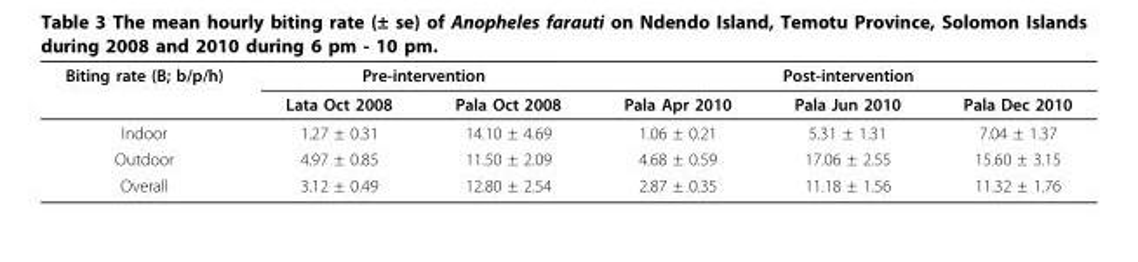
<table><thead><tr><td rowspan="2">Biting rate (B; b/p/h)</td><td colspan="2">Pre-intervention</td><td colspan="3">Post-intervention</td></tr><tr><td>Lata Oct 2008</td><td>Pala Oct 2008</td><td>Pala Apr 2010</td><td>Pala Jun 2010</td><td>Pala Dec 2010</td></tr></thead><tbody><tr><td>Indoor</td><td>1.27 ± 0.31</td><td>14.10 ± 4.69</td><td>1.06 ± 0.21</td><td>5.31 ± 1.31</td><td>7.04 ± 1.37</td></tr><tr><td>Outdoor</td><td>4.97 ± 0.85</td><td>11.50 ± 2.09</td><td>4.68 ± 0.59</td><td>17.06 ± 2.55</td><td>15.60 ± 3.15</td></tr><tr><td>Overall</td><td>3.12 ± 0.49</td><td>12.80 ± 2.54</td><td>2.87 ± 0.35</td><td>11.18 ± 1.56</td><td>11.32 ± 1.76</td></tr></tbody></table>